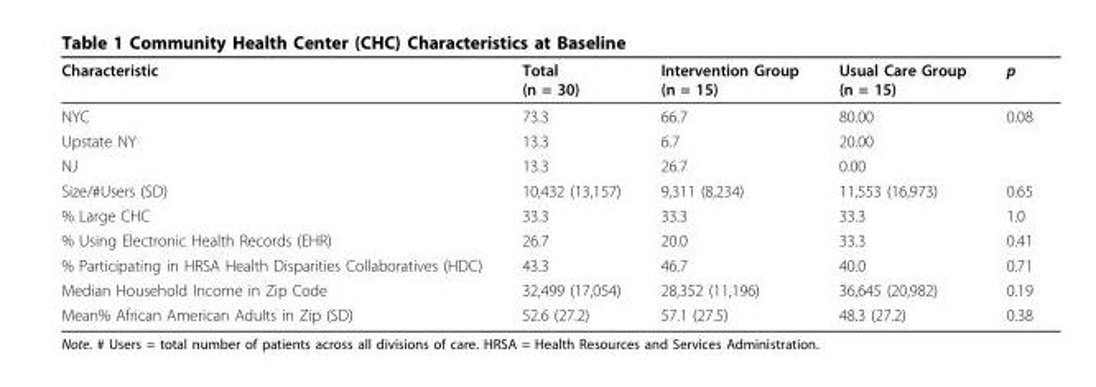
<table><thead><tr><td>Characteristic</td><td>Total (n = 30)</td><td>Intervention Group (n = 15)</td><td>Usual Care Group (n = 15)</td><td>p</td></tr></thead><tbody><tr><td>NYC</td><td>73.3</td><td>66.7</td><td>80.00</td><td>0.08</td></tr><tr><td>Upstate NY</td><td>13.3</td><td>6.7</td><td>20.00</td><td></td></tr><tr><td>NJ</td><td>13.3</td><td>26.7</td><td>0.00</td><td></td></tr><tr><td>Size/#Users (SD)</td><td>10,432 (13,157)</td><td>9,311 (8,234)</td><td>11,553 (16,973)</td><td>0.65</td></tr><tr><td>% Large CHC</td><td>33.3</td><td>33.3</td><td>33.3</td><td>1.0</td></tr><tr><td>% Using Electronic Health Records (EHR)</td><td>26.7</td><td>20.0</td><td>33.3</td><td>0.41</td></tr><tr><td>% Participating in HRSA Health Disparities Collaboratives (HDC)</td><td>43.3</td><td>46.7</td><td>40.0</td><td>0.71</td></tr><tr><td>Median Household Income in Zip Code</td><td>32,499 (17,054)</td><td>28,352 (11,196)</td><td>36,645 (20,982)</td><td>0.19</td></tr><tr><td>Mean% African American Adults in Zip (SD)</td><td>52.6 (27.2)</td><td>57.1 (27.5)</td><td>48.3 (27.2)</td><td>0.38</td></tr></tbody></table>